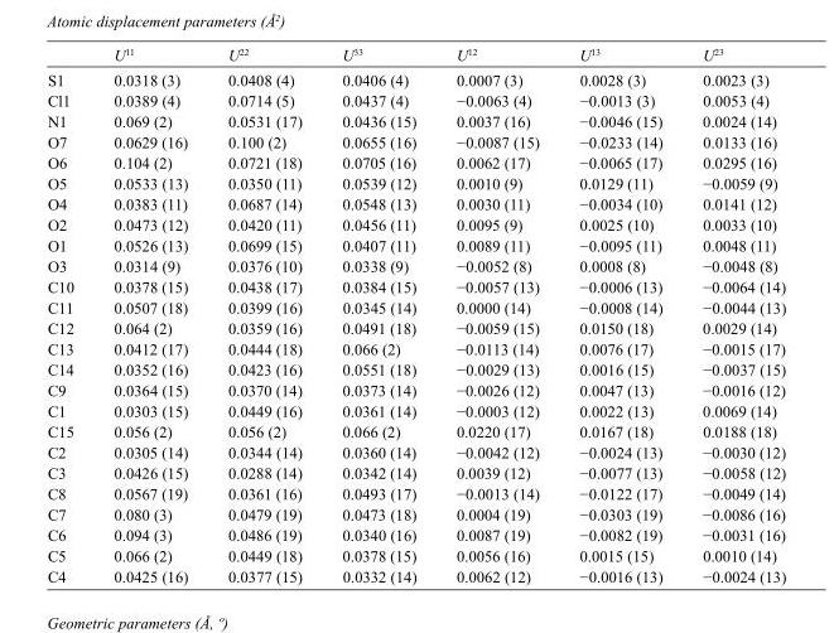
<table><thead><tr><td></td><td>U<sup>11</sup></td><td>U<sup>22</sup></td><td>U<sup>33</sup></td><td>U<sup>12</sup></td><td>U<sup>13</sup></td><td>U<sup>23</sup></td></tr></thead><tbody><tr><td>S1</td><td>0.0318 (3)</td><td>0.0408 (4)</td><td>0.0406 (4)</td><td>0.0007 (3)</td><td>0.0028 (3)</td><td>0.0023 (3)</td></tr><tr><td>Cl1</td><td>0.0389 (4)</td><td>0.0714 (5)</td><td>0.0437 (4)</td><td>−0.0063 (4)</td><td>−0.0013 (3)</td><td>0.0053 (4)</td></tr><tr><td>N1</td><td>0.069 (2)</td><td>0.0531 (17)</td><td>0.0436 (15)</td><td>0.0037 (16)</td><td>−0.0046 (15)</td><td>0.0024 (14)</td></tr><tr><td>O7</td><td>0.0629 (16)</td><td>0.100 (2)</td><td>0.0655 (16)</td><td>−0.0087 (15)</td><td>−0.0233 (14)</td><td>0.0133 (16)</td></tr><tr><td>O6</td><td>0.104 (2)</td><td>0.0721 (18)</td><td>0.0705 (16)</td><td>0.0062 (17)</td><td>−0.0065 (17)</td><td>0.0295 (16)</td></tr><tr><td>O5</td><td>0.0533 (13)</td><td>0.0350 (11)</td><td>0.0539 (12)</td><td>0.0010 (9)</td><td>0.0129 (11)</td><td>−0.0059 (9)</td></tr><tr><td>O4</td><td>0.0383 (11)</td><td>0.0687 (14)</td><td>0.0548 (13)</td><td>0.0030 (11)</td><td>−0.0034 (10)</td><td>0.0141 (12)</td></tr><tr><td>O2</td><td>0.0473 (12)</td><td>0.0420 (11)</td><td>0.0456 (11)</td><td>0.0095 (9)</td><td>0.0025 (10)</td><td>0.0033 (10)</td></tr><tr><td>O1</td><td>0.0526 (13)</td><td>0.0699 (15)</td><td>0.0407 (11)</td><td>0.0089 (11)</td><td>−0.0095 (11)</td><td>0.0048 (11)</td></tr><tr><td>O3</td><td>0.0314 (9)</td><td>0.0376 (10)</td><td>0.0338 (9)</td><td>−0.0052 (8)</td><td>0.0008 (8)</td><td>−0.0048 (8)</td></tr><tr><td>C10</td><td>0.0378 (15)</td><td>0.0438 (17)</td><td>0.0384 (15)</td><td>−0.0057 (13)</td><td>−0.0006 (13)</td><td>−0.0064 (14)</td></tr><tr><td>C11</td><td>0.0507 (18)</td><td>0.0399 (16)</td><td>0.0345 (14)</td><td>0.0000 (14)</td><td>−0.0008 (14)</td><td>−0.0044 (13)</td></tr><tr><td>C12</td><td>0.064 (2)</td><td>0.0359 (16)</td><td>0.0491 (18)</td><td>−0.0059 (15)</td><td>0.0150 (18)</td><td>0.0029 (14)</td></tr><tr><td>C13</td><td>0.0412 (17)</td><td>0.0444 (18)</td><td>0.066 (2)</td><td>−0.0113 (14)</td><td>0.0076 (17)</td><td>−0.0015 (17)</td></tr><tr><td>C14</td><td>0.0352 (16)</td><td>0.0423 (16)</td><td>0.0551 (18)</td><td>−0.0029 (13)</td><td>0.0016 (15)</td><td>−0.0037 (15)</td></tr><tr><td>C9</td><td>0.0364 (15)</td><td>0.0370 (14)</td><td>0.0373 (14)</td><td>−0.0026 (12)</td><td>0.0047 (13)</td><td>−0.0016 (12)</td></tr><tr><td>C1</td><td>0.0303 (15)</td><td>0.0449 (16)</td><td>0.0361 (14)</td><td>−0.0003 (12)</td><td>0.0022 (13)</td><td>0.0069 (14)</td></tr><tr><td>C15</td><td>0.056 (2)</td><td>0.056 (2)</td><td>0.066 (2)</td><td>0.0220 (17)</td><td>0.0167 (18)</td><td>0.0188 (18)</td></tr><tr><td>C2</td><td>0.0305 (14)</td><td>0.0344 (14)</td><td>0.0360 (14)</td><td>−0.0042 (12)</td><td>−0.0024 (13)</td><td>−0.0030 (12)</td></tr><tr><td>C3</td><td>0.0426 (15)</td><td>0.0288 (14)</td><td>0.0342 (14)</td><td>0.0039 (12)</td><td>−0.0077 (13)</td><td>−0.0058 (12)</td></tr><tr><td>C8</td><td>0.0567 (19)</td><td>0.0361 (16)</td><td>0.0493 (17)</td><td>−0.0013 (14)</td><td>−0.0122 (17)</td><td>−0.0049 (14)</td></tr><tr><td>C7</td><td>0.080 (3)</td><td>0.0479 (19)</td><td>0.0473 (18)</td><td>0.0004 (19)</td><td>−0.0303 (19)</td><td>−0.0086 (16)</td></tr><tr><td>C6</td><td>0.094 (3)</td><td>0.0486 (19)</td><td>0.0340 (16)</td><td>0.0087 (19)</td><td>−0.0082 (19)</td><td>−0.0031 (16)</td></tr><tr><td>C5</td><td>0.066 (2)</td><td>0.0449 (18)</td><td>0.0378 (15)</td><td>0.0056 (16)</td><td>0.0015 (15)</td><td>0.0010 (14)</td></tr><tr><td>C4</td><td>0.0425 (16)</td><td>0.0377 (15)</td><td>0.0332 (14)</td><td>0.0062 (12)</td><td>−0.0016 (13)</td><td>−0.0024 (13)</td></tr></tbody></table>